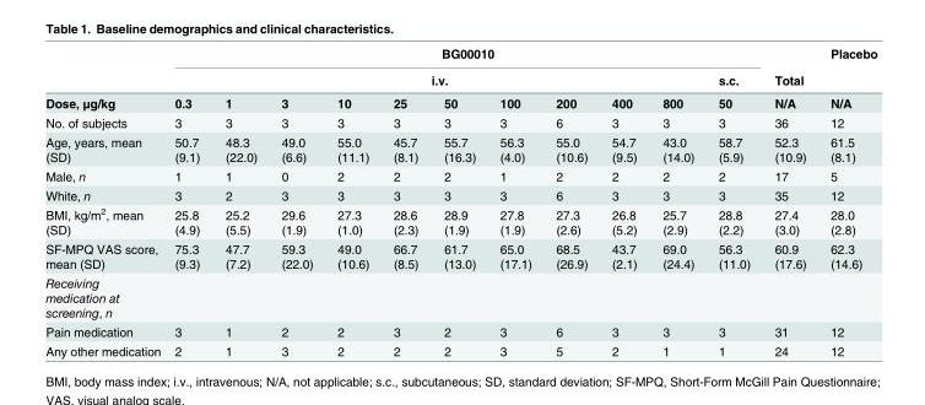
<table><thead><tr><td rowspan="3">Dose, μg/kg</td><td colspan="11">BG00010</td><td rowspan="3">Total N/A</td><td rowspan="3">Placebo N/A</td></tr><tr><td colspan="10">i.v.</td><td rowspan="2">s.c. 50</td></tr><tr><td>0.3</td><td>1</td><td>3</td><td>10</td><td>25</td><td>50</td><td>100</td><td>200</td><td>400</td><td>800</td></tr></thead><tbody><tr><td>No. of subjects</td><td>3</td><td>3</td><td>3</td><td>3</td><td>3</td><td>3</td><td>3</td><td>6</td><td>3</td><td>3</td><td>3</td><td>36</td><td>12</td></tr><tr><td>Age, years, mean (SD)</td><td>50.7 (9.1)</td><td>48.3 (22.0)</td><td>49.0 (6.6)</td><td>55.0 (11.1)</td><td>45.7 (8.1)</td><td>55.7 (16.3)</td><td>56.3 (4.0)</td><td>55.0 (10.6)</td><td>54.7 (9.5)</td><td>43.0 (14.0)</td><td>58.7 (5.9)</td><td>52.3 (10.9)</td><td>61.5 (8.1)</td></tr><tr><td>Male, n</td><td>1</td><td>1</td><td>0</td><td>2</td><td>2</td><td>2</td><td>1</td><td>2</td><td>2</td><td>2</td><td>2</td><td>17</td><td>5</td></tr><tr><td>White, n</td><td>3</td><td>2</td><td>3</td><td>3</td><td>3</td><td>3</td><td>3</td><td>6</td><td>3</td><td>3</td><td>3</td><td>35</td><td>12</td></tr><tr><td>BMI, kg/m<sup>2</sup>, mean (SD)</td><td>25.8 (4.9)</td><td>25.2 (5.5)</td><td>29.6 (1.9)</td><td>27.3 (1.0)</td><td>28.6 (2.3)</td><td>28.9 (1.9)</td><td>27.8 (1.9)</td><td>27.3 (2.6)</td><td>26.8 (5.2)</td><td>25.7 (2.9)</td><td>28.8 (2.2)</td><td>27.4 (3.0)</td><td>28.0 (2.8)</td></tr><tr><td>SF-MPQ VAS score, mean (SD)</td><td>75.3 (9.3)</td><td>47.7 (7.2)</td><td>59.3 (22.0)</td><td>49.0 (10.6)</td><td>66.7 (8.5)</td><td>61.7 (13.0)</td><td>65.0 (17.1)</td><td>68.5 (26.9)</td><td>43.7 (2.1)</td><td>69.0 (24.4)</td><td>56.3 (11.0)</td><td>60.9 (17.6)</td><td>62.3 (14.6)</td></tr><tr><td colspan="14">Receiving medication at screening, n</td></tr><tr><td>Pain medication</td><td>3</td><td>1</td><td>2</td><td>2</td><td>3</td><td>2</td><td>3</td><td>6</td><td>3</td><td>3</td><td>3</td><td>31</td><td>12</td></tr><tr><td>Any other medication</td><td>2</td><td>1</td><td>3</td><td>2</td><td>2</td><td>2</td><td>3</td><td>5</td><td>2</td><td>1</td><td>1</td><td>24</td><td>12</td></tr></tbody></table>